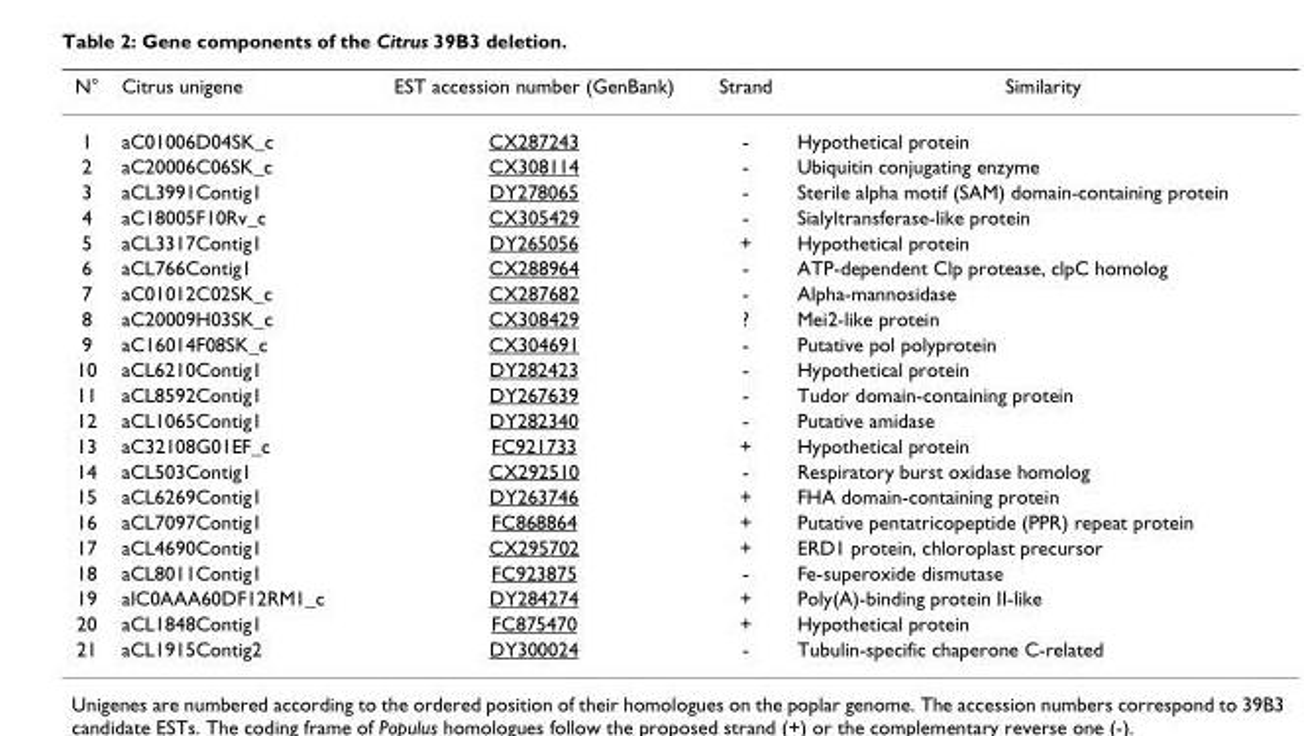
<table><thead><tr><td>N°</td><td>Citrus unigene</td><td>EST accession number (GenBank)</td><td>Strand</td><td>Similarity</td></tr></thead><tbody><tr><td>1</td><td>aC01006D04SK_c</td><td>CX287243</td><td>-</td><td>Hypothetical protein</td></tr><tr><td>2</td><td>aC20006C06SK_c</td><td>CX308114</td><td>-</td><td>Ubiquitin conjugating enzyme</td></tr><tr><td>3</td><td>aCL3991Contig1</td><td>DY278065</td><td>-</td><td>Sterile alpha motif (SAM) domain-containing protein</td></tr><tr><td>4</td><td>aC18005F10Rv_c</td><td>CX305429</td><td>-</td><td>Sialyltransferase-like protein</td></tr><tr><td>5</td><td>aCL3317Contig1</td><td>DY265056</td><td>+</td><td>Hypothetical protein</td></tr><tr><td>6</td><td>aCL766Contig1</td><td>CX288964</td><td>-</td><td>ATP-dependent Clp protease, clpC homolog</td></tr><tr><td>7</td><td>aC01012C02SK_c</td><td>CX287682</td><td>-</td><td>Alpha-mannosidase</td></tr><tr><td>8</td><td>aC20009H03SK_c</td><td>CX308429</td><td>?</td><td>Mei2-like protein</td></tr><tr><td>9</td><td>aC16014F08SK_c</td><td>CX304691</td><td>-</td><td>Putative pol polyprotein</td></tr><tr><td>10</td><td>aCL6210Contig1</td><td>DY282423</td><td>-</td><td>Hypothetical protein</td></tr><tr><td>11</td><td>aCL8592Contig1</td><td>DY267639</td><td>-</td><td>Tudor domain-containing protein</td></tr><tr><td>12</td><td>aCL1065Contig1</td><td>DY282340</td><td>-</td><td>Putative amidase</td></tr><tr><td>13</td><td>aC32108G01EF_c</td><td>FC921733</td><td>+</td><td>Hypothetical protein</td></tr><tr><td>14</td><td>aCL503Contig1</td><td>CX292510</td><td>-</td><td>Respiratory burst oxidase homolog</td></tr><tr><td>15</td><td>aCL6269Contig1</td><td>DY263746</td><td>+</td><td>FHA domain-containing protein</td></tr><tr><td>16</td><td>aCL7097Contig1</td><td>FC868864</td><td>+</td><td>Putative pentatricopeptide (PPR) repeat protein</td></tr><tr><td>17</td><td>aCL4690Contig1</td><td>CX295702</td><td>+</td><td>ERD1 protein, chloroplast precursor</td></tr><tr><td>18</td><td>aCL8011Contig1</td><td>FC923875</td><td>-</td><td>Fe-superoxide dismutase</td></tr><tr><td>19</td><td>aIC0AAA60DF12RM1_c</td><td>DY284274</td><td>+</td><td>Poly(A)-binding protein II-like</td></tr><tr><td>20</td><td>aCL1848Contig1</td><td>FC875470</td><td>+</td><td>Hypothetical protein</td></tr><tr><td>21</td><td>aCL1915Contig2</td><td>DY300024</td><td>-</td><td>Tubulin-specific chaperone C-related</td></tr></tbody></table>